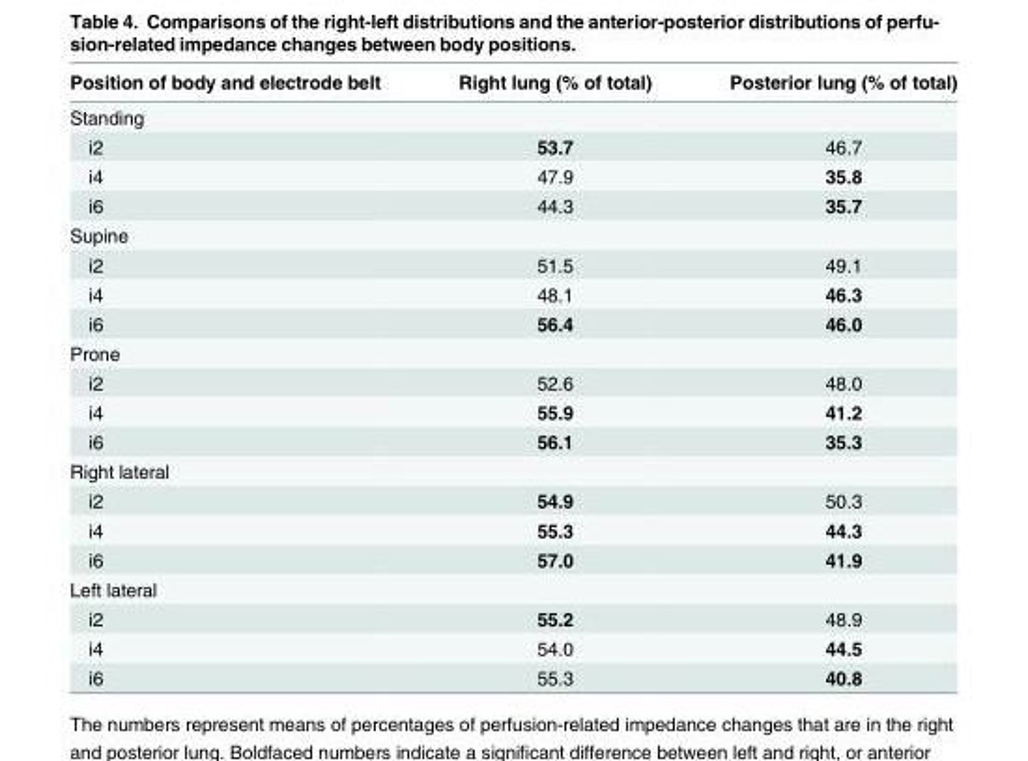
<table><thead><tr><td>Position of body and electrode belt</td><td>Right lung (% of total)</td><td>Posterior lung (% of total)</td></tr></thead><tbody><tr><td colspan="3">Standing</td></tr><tr><td>i2</td><td>53.7</td><td>46.7</td></tr><tr><td>i4</td><td>47.9</td><td>35.8</td></tr><tr><td>i6</td><td>44.3</td><td>35.7</td></tr><tr><td colspan="3">Supine</td></tr><tr><td>i2</td><td>51.5</td><td>49.1</td></tr><tr><td>i4</td><td>48.1</td><td>46.3</td></tr><tr><td>i6</td><td>56.4</td><td>46.0</td></tr><tr><td colspan="3">Prone</td></tr><tr><td>i2</td><td>52.6</td><td>48.0</td></tr><tr><td>i4</td><td>55.9</td><td>41.2</td></tr><tr><td>i6</td><td>56.1</td><td>35.3</td></tr><tr><td colspan="3">Right lateral</td></tr><tr><td>i2</td><td>54.9</td><td>50.3</td></tr><tr><td>i4</td><td>55.3</td><td>44.3</td></tr><tr><td>i6</td><td>57.0</td><td>41.9</td></tr><tr><td colspan="3">Left lateral</td></tr><tr><td>i2</td><td>55.2</td><td>48.9</td></tr><tr><td>i4</td><td>54.0</td><td>44.5</td></tr><tr><td>i6</td><td>55.3</td><td>40.8</td></tr></tbody></table>